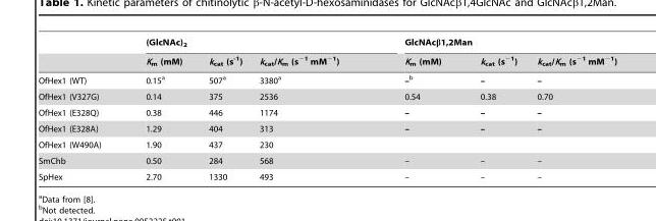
<table><thead><tr><td rowspan="2"></td><td colspan="3">(GlcNAc)<sub>2</sub></td><td colspan="3">GlcNAcβ1,2Man</td></tr><tr><td>K<sub>m</sub> (mM)</td><td>k<sub>cat</sub> (s<sup>-1</sup>)</td><td>k<sub>cat</sub>/K<sub>m</sub> (s<sup>−1</sup> mM<sup>−1</sup>)</td><td>K<sub>m</sub> (mM)</td><td>k<sub>cat</sub> (s<sup>−1</sup>)</td><td>k<sub>cat</sub>/K<sub>m</sub> (s<sup>−1</sup> mM<sup>−1</sup>)</td></tr></thead><tbody><tr><td>OfHex1 (WT)</td><td>0.15<sup>a</sup></td><td>507<sup>a</sup></td><td>3380<sup>a</sup></td><td>–b</td><td>–</td><td>–</td></tr><tr><td>OfHex1 (V327G)</td><td>0.14</td><td>375</td><td>2536</td><td>0.54</td><td>0.38</td><td>0.70</td></tr><tr><td>OfHex1 (E328Q)</td><td>0.38</td><td>446</td><td>1174</td><td>–</td><td>–</td><td>–</td></tr><tr><td>OfHex1 (E328A)</td><td>1.29</td><td>404</td><td>313</td><td>–</td><td>–</td><td>–</td></tr><tr><td>OfHex1 (W490A)</td><td>1.90</td><td>437</td><td>230</td><td></td><td></td><td></td></tr><tr><td>SmChb</td><td>0.50</td><td>284</td><td>568</td><td>–</td><td>–</td><td>–</td></tr><tr><td>SpHex</td><td>2.70</td><td>1330</td><td>493</td><td>–</td><td>–</td><td>–</td></tr></tbody></table>